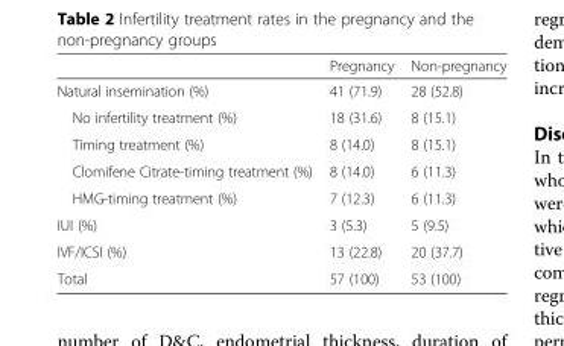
<table><thead><tr><td></td><td>Pregnancy</td><td>Non-pregnancy</td></tr></thead><tbody><tr><td>Natural insemination (%)</td><td>41 (71.9)</td><td>28 (52.8)</td></tr><tr><td>No infertility treatment (%)</td><td>18 (31.6)</td><td>8 (15.1)</td></tr><tr><td>Timing treatment (%)</td><td>8 (14.0)</td><td>8 (15.1)</td></tr><tr><td>Clomifene Citrate-timing treatment (%)</td><td>8 (14.0)</td><td>6 (11.3)</td></tr><tr><td>HMG-timing treatment (%)</td><td>7 (12.3)</td><td>6 (11.3)</td></tr><tr><td>IUI (%)</td><td>3 (5.3)</td><td>5 (9.5)</td></tr><tr><td>IVF/ICSI (%)</td><td>13 (22.8)</td><td>20 (37.7)</td></tr><tr><td>Total</td><td>57 (100)</td><td>53 (100)</td></tr></tbody></table>